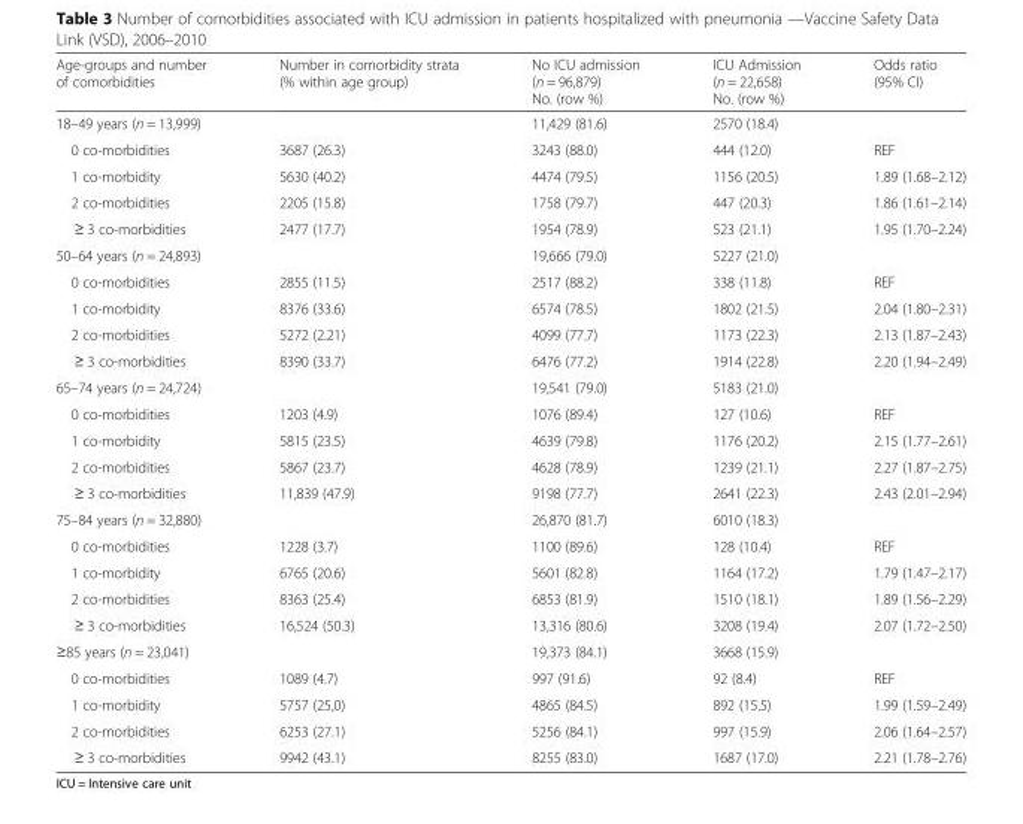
<table><thead><tr><td>Age-groups and number of comorbidities</td><td>Number in comorbidity strata (% within age group)</td><td>No ICU admission (n = 96,879) No. (row %)</td><td>ICU Admission (n = 22,658) No. (row %)</td><td>Odds ratio (95% CI)</td></tr></thead><tbody><tr><td>18–49 years (n = 13,999)</td><td></td><td>11,429 (81.6)</td><td>2570 (18.4)</td><td></td></tr><tr><td>0 co-morbidities</td><td>3687 (26.3)</td><td>3243 (88.0)</td><td>444 (12.0)</td><td>REF</td></tr><tr><td>1 co-morbidity</td><td>5630 (40.2)</td><td>4474 (79.5)</td><td>1156 (20.5)</td><td>1.89 (1.68–2.12)</td></tr><tr><td>2 co-morbidities</td><td>2205 (15.8)</td><td>1758 (79.7)</td><td>447 (20.3)</td><td>1.86 (1.61–2.14)</td></tr><tr><td>≥ 3 co-morbidities</td><td>2477 (17.7)</td><td>1954 (78.9)</td><td>523 (21.1)</td><td>1.95 (1.70–2.24)</td></tr><tr><td>50–64 years (n = 24,893)</td><td></td><td>19,666 (79.0)</td><td>5227 (21.0)</td><td></td></tr><tr><td>0 co-morbidities</td><td>2855 (11.5)</td><td>2517 (88.2)</td><td>338 (11.8)</td><td>REF</td></tr><tr><td>1 co-morbidity</td><td>8376 (33.6)</td><td>6574 (78.5)</td><td>1802 (21.5)</td><td>2.04 (1.80–2.31)</td></tr><tr><td>2 co-morbidities</td><td>5272 (2.21)</td><td>4099 (77.7)</td><td>1173 (22.3)</td><td>2.13 (1.87–2.43)</td></tr><tr><td>≥ 3 co-morbidities</td><td>8390 (33.7)</td><td>6476 (77.2)</td><td>1914 (22.8)</td><td>2.20 (1.94–2.49)</td></tr><tr><td>65–74 years (n = 24,724)</td><td></td><td>19,541 (79.0)</td><td>5183 (21.0)</td><td></td></tr><tr><td>0 co-morbidities</td><td>1203 (4.9)</td><td>1076 (89.4)</td><td>127 (10.6)</td><td>REF</td></tr><tr><td>1 co-morbidity</td><td>5815 (23.5)</td><td>4639 (79.8)</td><td>1176 (20.2)</td><td>2.15 (1.77–2.61)</td></tr><tr><td>2 co-morbidities</td><td>5867 (23.7)</td><td>4628 (78.9)</td><td>1239 (21.1)</td><td>2.27 (1.87–2.75)</td></tr><tr><td>≥ 3 co-morbidities</td><td>11,839 (47.9)</td><td>9198 (77.7)</td><td>2641 (22.3)</td><td>2.43 (2.01–2.94)</td></tr><tr><td>75–84 years (n = 32,880)</td><td></td><td>26,870 (81.7)</td><td>6010 (18.3)</td><td></td></tr><tr><td>0 co-morbidities</td><td>1228 (3.7)</td><td>1100 (89.6)</td><td>128 (10.4)</td><td>REF</td></tr><tr><td>1 co-morbidity</td><td>6765 (20.6)</td><td>5601 (82.8)</td><td>1164 (17.2)</td><td>1.79 (1.47–2.17)</td></tr><tr><td>2 co-morbidities</td><td>8363 (25.4)</td><td>6853 (81.9)</td><td>1510 (18.1)</td><td>1.89 (1.56–2.29)</td></tr><tr><td>≥ 3 co-morbidities</td><td>16,524 (50.3)</td><td>13,316 (80.6)</td><td>3208 (19.4)</td><td>2.07 (1.72–2.50)</td></tr><tr><td>≥85 years (n = 23,041)</td><td></td><td>19,373 (84.1)</td><td>3668 (15.9)</td><td></td></tr><tr><td>0 co-morbidities</td><td>1089 (4.7)</td><td>997 (91.6)</td><td>92 (8.4)</td><td>REF</td></tr><tr><td>1 co-morbidity</td><td>5757 (25,0)</td><td>4865 (84.5)</td><td>892 (15.5)</td><td>1.99 (1.59–2.49)</td></tr><tr><td>2 co-morbidities</td><td>6253 (27.1)</td><td>5256 (84.1)</td><td>997 (15.9)</td><td>2.06 (1.64–2.57)</td></tr><tr><td>≥ 3 co-morbidities</td><td>9942 (43.1)</td><td>8255 (83.0)</td><td>1687 (17.0)</td><td>2.21 (1.78–2.76)</td></tr></tbody></table>